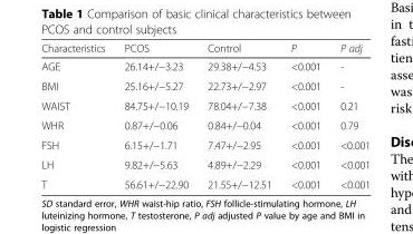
<table><thead><tr><td>Characteristics</td><td>PCOS</td><td>Control</td><td>P</td><td>P adj</td></tr></thead><tbody><tr><td>AGE</td><td>26.14+/−3.23</td><td>29.38+/−4.53</td><td>&lt;0.001</td><td>-</td></tr><tr><td>BMI</td><td>25.16+/−5.27</td><td>22.73+/−2.97</td><td>&lt;0.001</td><td>-</td></tr><tr><td>WAIST</td><td>84.75+/−10.19</td><td>78.04+/−7.38</td><td>&lt;0.001</td><td>0.21</td></tr><tr><td>WHR</td><td>0.87+/−0.06</td><td>0.84+/−0.04</td><td>&lt;0.001</td><td>0.79</td></tr><tr><td>FSH</td><td>6.15+/−1.71</td><td>7.47+/−2.95</td><td>&lt;0.001</td><td>&lt;0.001</td></tr><tr><td>LH</td><td>9.82+/−5.63</td><td>4.89+/−2.29</td><td>&lt;0.001</td><td>&lt;0.001</td></tr><tr><td>T</td><td>56.61+/−22.90</td><td>21.55+/−12.51</td><td>&lt;0.001</td><td>&lt;0.001</td></tr></tbody></table>